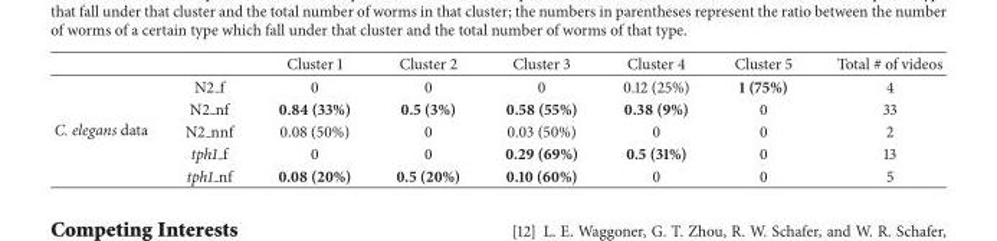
<table><thead><tr><td></td><td></td><td>Cluster 1</td><td>Cluster 2</td><td>Cluster 3</td><td>Cluster 4</td><td>Cluster 5</td><td>Total # of videos</td></tr></thead><tbody><tr><td rowspan="5">C. elegans data</td><td>N2 f</td><td>0</td><td>0</td><td>0</td><td>0.12 (25%)</td><td>1 (75%)</td><td>4</td></tr><tr><td>N2 nf</td><td>0.84 (33%)</td><td>0.5 (3%)</td><td>0.58 (55%)</td><td>0.38 (9%)</td><td>0</td><td>33</td></tr><tr><td>N2 nnf</td><td>0.08 (50%)</td><td>0</td><td>0.03 (50%)</td><td>0</td><td>0</td><td>2</td></tr><tr><td>tph1 f</td><td>0</td><td>0</td><td>0.29 (69%)</td><td>0.5 (31%)</td><td>0</td><td>13</td></tr><tr><td>tph1 nf</td><td>0.08 (20%)</td><td>0.5 (20%)</td><td>0.10 (60%)</td><td>0</td><td>0</td><td>5</td></tr></tbody></table>